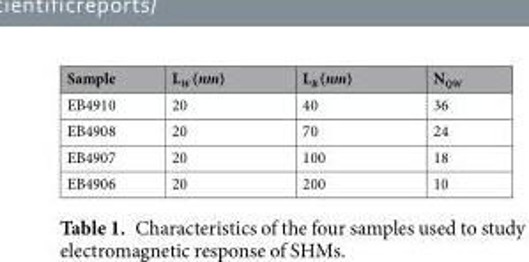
<table><thead><tr><td>Sample</td><td>L<sub>W</sub> (nm)</td><td>L<sub>B</sub> (nm)</td><td>N<sub>QW</sub></td></tr></thead><tbody><tr><td>EB4910</td><td>20</td><td>40</td><td>36</td></tr><tr><td>EB4908</td><td>20</td><td>70</td><td>24</td></tr><tr><td>EB4907</td><td>20</td><td>100</td><td>18</td></tr><tr><td>EB4906</td><td>20</td><td>200</td><td>10</td></tr></tbody></table>